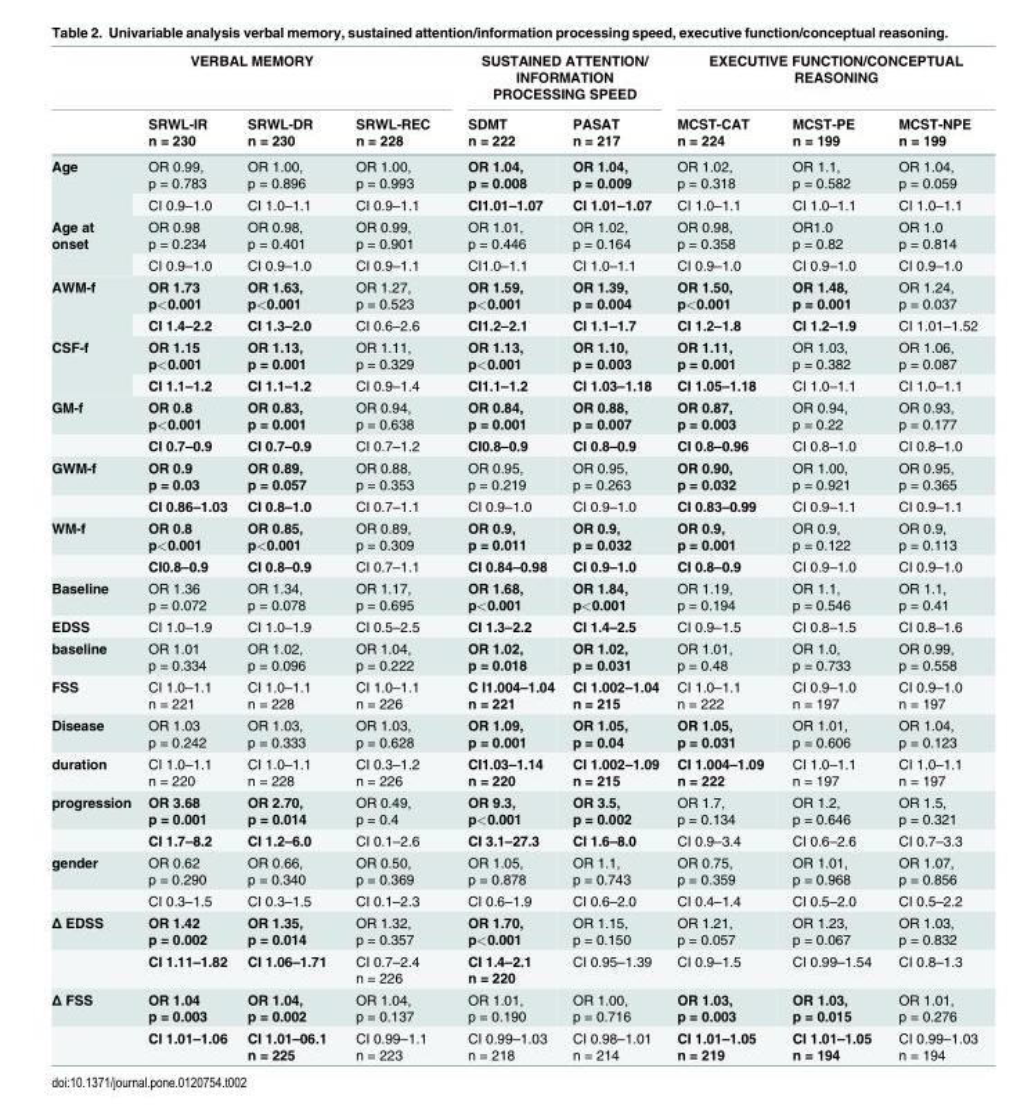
<table><thead><tr><td colspan="4">VERBAL MEMORY</td><td colspan="2">SUSTAINED ATTENTION/ INFORMATION PROCESSING SPEED</td><td colspan="3">EXECUTIVE FUNCTION/CONCEPTUAL REASONING</td></tr><tr><td></td><td>SRWL-IR n = 230</td><td>SRWL-DR n = 230</td><td>SRWL-REC n = 228</td><td>SDMT n = 222</td><td>PASAT n = 217</td><td>MCST-CAT n = 224</td><td>MCST-PE n = 199</td><td>MCST-NPE n = 199</td></tr></thead><tbody><tr><td rowspan="2">Age</td><td>OR 0.99, p = 0.783</td><td>OR 1.00, p = 0.896</td><td>OR 1.00, p = 0.993</td><td>OR 1.04, p = 0.008</td><td>OR 1.04, p = 0.009</td><td>OR 1.02, p = 0.318</td><td>OR 1.1, p = 0.582</td><td>OR 1.04, p = 0.059</td></tr><tr><td>CI 0.9–1.0</td><td>CI 1.0–1.1</td><td>CI 0.9–1.1</td><td>CI1.01–1.07</td><td>CI 1.01–1.07</td><td>CI 1.0–1.1</td><td>CI 1.0–1.1</td><td>CI 1.0–1.1</td></tr><tr><td rowspan="2">Age at onset</td><td>OR 0.98 p = 0.234</td><td>OR 0.98, p = 0.401</td><td>OR 0.99, p = 0.901</td><td>OR 1.01, p = 0.446</td><td>OR 1.02, p = 0.164</td><td>OR 0.98, p = 0.358</td><td>OR1.0 p = 0.82</td><td>OR 1.0 p = 0.814</td></tr><tr><td>CI 0.9–1.0</td><td>CI 0.9–1.0</td><td>CI 0.9–1.1</td><td>CI1.0–1.1</td><td>CI 1.0–1.1</td><td>CI 0.9–1.0</td><td>CI 0.9–1.0</td><td>CI 0.9–1.0</td></tr><tr><td rowspan="2">AWM-f</td><td>OR 1.73 p&lt;0.001</td><td>OR 1.63, p&lt;0.001</td><td>OR 1.27, p = 0.523</td><td>OR 1.59, p&lt;0.001</td><td>OR 1.39, p = 0.004</td><td>OR 1.50, p&lt;0.001</td><td>OR 1.48, p = 0.001</td><td>OR 1.24, p = 0.037</td></tr><tr><td>CI 1.4–2.2</td><td>CI 1.3–2.0</td><td>CI 0.6–2.6</td><td>CI1.2–2.1</td><td>CI 1.1–1.7</td><td>CI 1.2–1.8</td><td>CI 1.2–1.9</td><td>CI 1.01–1.52</td></tr><tr><td rowspan="2">CSF-f</td><td>OR 1.15 p&lt;0.001</td><td>OR 1.13, p = 0.001</td><td>OR 1.11, p = 0.329</td><td>OR 1.13, p&lt;0.001</td><td>OR 1.10, p = 0.003</td><td>OR 1.11, p = 0.001</td><td>OR 1.03, p = 0.382</td><td>OR 1.06, p = 0.087</td></tr><tr><td>CI 1.1–1.2</td><td>CI 1.1–1.2</td><td>CI 0.9–1.4</td><td>CI1.1–1.2</td><td>CI 1.03–1.18</td><td>CI 1.05–1.18</td><td>CI 1.0–1.1</td><td>CI 1.0–1.1</td></tr><tr><td rowspan="2">GM-f</td><td>OR 0.8 p&lt;0.001</td><td>OR 0.83, p = 0.001</td><td>OR 0.94, p = 0.638</td><td>OR 0.84, p = 0.001</td><td>OR 0.88, p = 0.007</td><td>OR 0.87, p = 0.003</td><td>OR 0.94, p = 0.22</td><td>OR 0.93, p = 0.177</td></tr><tr><td>CI 0.7–0.9</td><td>CI 0.7–0.9</td><td>CI 0.7–1.2</td><td>CI0.8–0.9</td><td>CI 0.8–0.9</td><td>CI 0.8–0.96</td><td>CI 0.8–1.0</td><td>CI 0.8–1.0</td></tr><tr><td rowspan="2">GWM-f</td><td>OR 0.9 p = 0.03</td><td>OR 0.89, p = 0.057</td><td>OR 0.88, p = 0.353</td><td>OR 0.95, p = 0.219</td><td>OR 0.95, p = 0.263</td><td>OR 0.90, p = 0.032</td><td>OR 1.00, p = 0.921</td><td>OR 0.95, p = 0.365</td></tr><tr><td>CI 0.86–1.03</td><td>CI 0.8–1.0</td><td>CI 0.7–1.1</td><td>CI 0.9–1.0</td><td>CI 0.9–1.0</td><td>CI 0.83–0.99</td><td>CI 0.9–1.1</td><td>CI 0.9–1.1</td></tr><tr><td rowspan="2">WM-f</td><td>OR 0.8 p&lt;0.001</td><td>OR 0.85, p&lt;0.001</td><td>OR 0.89, p = 0.309</td><td>OR 0.9, p = 0.011</td><td>OR 0.9, p = 0.032</td><td>OR 0.9, p = 0.001</td><td>OR 0.9, p = 0.122</td><td>OR 0.9, p = 0.113</td></tr><tr><td>CI0.8–0.9</td><td>CI 0.8–0.9</td><td>CI 0.7–1.1</td><td>CI 0.84–0.98</td><td>CI 0.9–1.0</td><td>CI 0.8–0.9</td><td>CI 0.9–1.0</td><td>CI 0.9–1.0</td></tr><tr><td>Baseline</td><td>OR 1.36 p = 0.072</td><td>OR 1.34, p = 0.078</td><td>OR 1.17, p = 0.695</td><td>OR 1.68, p&lt;0.001</td><td>OR 1.84, p&lt;0.001</td><td>OR 1.19, p = 0.194</td><td>OR 1.1, p = 0.546</td><td>OR 1.1, p = 0.41</td></tr><tr><td>EDSS</td><td>CI 1.0–1.9</td><td>CI 1.0–1.9</td><td>CI 0.5–2.5</td><td>CI 1.3–2.2</td><td>CI 1.4–2.5</td><td>CI 0.9–1.5</td><td>CI 0.8–1.5</td><td>CI 0.8–1.6</td></tr><tr><td>baseline</td><td>OR 1.01 p = 0.334</td><td>OR 1.02, p = 0.096</td><td>OR 1.04, p = 0.222</td><td>OR 1.02, p = 0.018</td><td>OR 1.02, p = 0.031</td><td>OR 1.01, p = 0.48</td><td>OR 1.0, p = 0.733</td><td>OR 0.99, p = 0.558</td></tr><tr><td>FSS</td><td>CI 1.0–1.1 n = 221</td><td>CI 1.0–1.1 n = 228</td><td>CI 1.0–1.1 n = 226</td><td>C I1.004–1.04 n = 221</td><td>CI 1.002–1.04 n = 215</td><td>CI 1.0–1.1 n = 222</td><td>CI 0.9–1.0 n = 197</td><td>CI 0.9–1.0 n = 197</td></tr><tr><td>Disease</td><td>OR 1.03 p = 0.242</td><td>OR 1.03, p = 0.333</td><td>OR 1.03, p = 0.628</td><td>OR 1.09, p = 0.001</td><td>OR 1.05, p = 0.04</td><td>OR 1.05, p = 0.031</td><td>OR 1.01, p = 0.606</td><td>OR 1.04, p = 0.123</td></tr><tr><td>duration</td><td>CI 1.0–1.1 n = 220</td><td>CI 1.0–1.1 n = 228</td><td>CI 0.3–1.2 n = 226</td><td>CI1.03–1.14 n = 220</td><td>CI 1.002–1.09 n = 215</td><td>CI 1.004–1.09 n = 222</td><td>CI 1.0–1.1 n = 197</td><td>CI 1.0–1.1 n = 197</td></tr><tr><td rowspan="2">progression</td><td>OR 3.68 p = 0.001</td><td>OR 2.70, p = 0.014</td><td>OR 0.49, p = 0.4</td><td>OR 9.3, p&lt;0.001</td><td>OR 3.5, p = 0.002</td><td>OR 1.7, p = 0.134</td><td>OR 1.2, p = 0.646</td><td>OR 1.5, p = 0.321</td></tr><tr><td>CI 1.7–8.2</td><td>CI 1.2–6.0</td><td>CI 0.1–2.6</td><td>CI 3.1–27.3</td><td>CI 1.6–8.0</td><td>CI 0.9–3.4</td><td>CI 0.6–2.6</td><td>CI 0.7–3.3</td></tr><tr><td rowspan="2">gender</td><td>OR 0.62 p = 0.290</td><td>OR 0.66, p = 0.340</td><td>OR 0.50, p = 0.369</td><td>OR 1.05, p = 0.878</td><td>OR 1.1, p = 0.743</td><td>OR 0.75, p = 0.359</td><td>OR 1.01, p = 0.968</td><td>OR 1.07, p = 0.856</td></tr><tr><td>CI 0.3–1.5</td><td>CI 0.3–1.5</td><td>CI 0.1–2.3</td><td>CI 0.6–1.9</td><td>CI 0.6–2.0</td><td>CI 0.4–1.4</td><td>CI 0.5–2.0</td><td>CI 0.5–2.2</td></tr><tr><td rowspan="2">Δ EDSS</td><td>OR 1.42 p = 0.002</td><td>OR 1.35, p = 0.014</td><td>OR 1.32, p = 0.357</td><td>OR 1.70, p&lt;0.001</td><td>OR 1.15, p = 0.150</td><td>OR 1.21, p = 0.057</td><td>OR 1.23, p = 0.067</td><td>OR 1.03, p = 0.832</td></tr><tr><td>CI 1.11–1.82</td><td>CI 1.06–1.71</td><td>CI 0.7–2.4 n = 226</td><td>CI 1.4–2.1 n = 220</td><td>CI 0.95–1.39</td><td>CI 0.9–1.5</td><td>CI 0.99–1.54</td><td>CI 0.8–1.3</td></tr><tr><td rowspan="2">Δ FSS</td><td>OR 1.04 p = 0.003</td><td>OR 1.04, p = 0.002</td><td>OR 1.04, p = 0.137</td><td>OR 1.01, p = 0.190</td><td>OR 1.00, p = 0.716</td><td>OR 1.03, p = 0.003</td><td>OR 1.03, p = 0.015</td><td>OR 1.01, p = 0.276</td></tr><tr><td>CI 1.01–1.06</td><td>CI 1.01–06.1 n = 225</td><td>CI 0.99–1.1 n = 223</td><td>CI 0.99–1.03 n = 218</td><td>CI 0.98–1.01 n = 214</td><td>CI 1.01–1.05 n = 219</td><td>CI 1.01–1.05 n = 194</td><td>CI 0.99–1.03 n = 194</td></tr></tbody></table>